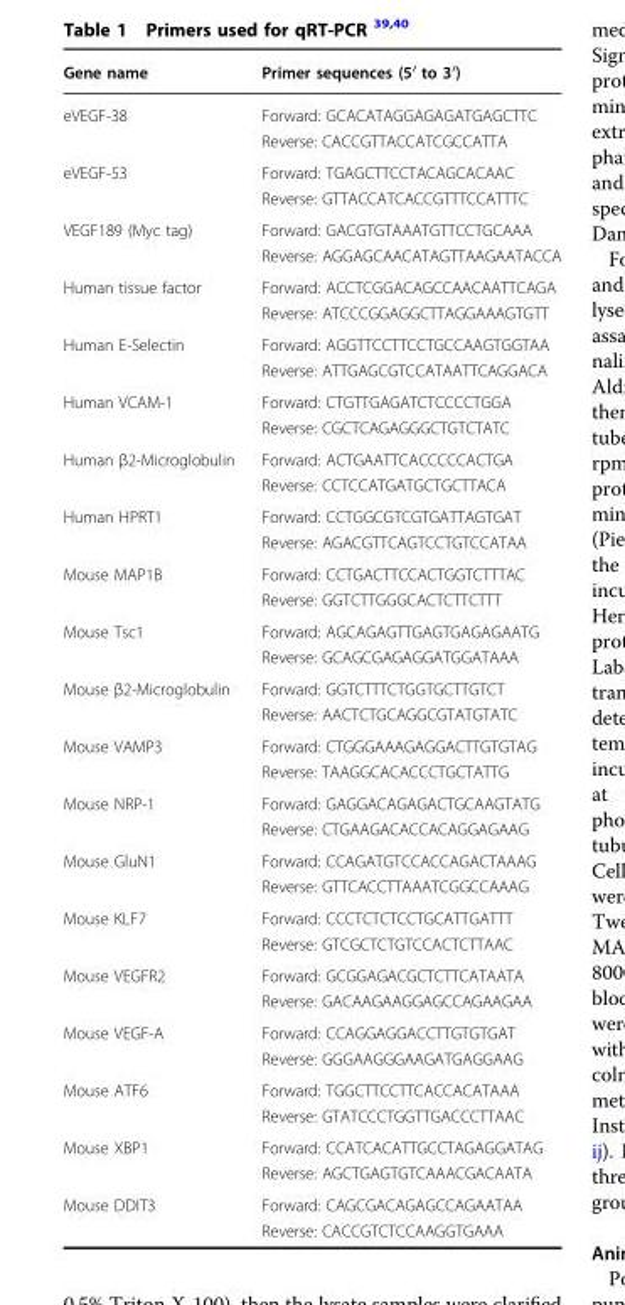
<table><thead><tr><td>Gene name</td><td>Primer sequences (5′ to 3′)</td></tr></thead><tbody><tr><td>eVEGF-38</td><td>Forward: GCACATAGGAGAGATGAGCTTC Reverse: CACCGTTACCATCGCCATTA</td></tr><tr><td>eVEGF-53</td><td>Forward: TGAGCTTCCTACAGCACAAC Reverse: GTTACCATCACCGTTTCCATTTC</td></tr><tr><td>VEGF189 (Myc tag)</td><td>Forward: GACGTGTAAATGTTCCTGCAAA Reverse: AGGAGCAACATAGTTAAGAATACCA</td></tr><tr><td>Human tissue factor</td><td>Forward: ACCTCGGACAGCCAACAATTCAGA Reverse: ATCCCGGAGGCTTAGGAAAGTGTT</td></tr><tr><td>Human E-Selectin</td><td>Forward: AGGTTCCTTCCTGCCAAGTGGTAA Reverse: ATTGAGCGTCCATAATTCAGGACA</td></tr><tr><td>Human VCAM-1</td><td>Forward: CTGTTGAGATCTCCCCTGGA Reverse: CGCTCAGAGGGCTGTCTATC</td></tr><tr><td>Human β2-Microglobulin</td><td>Forward: ACTGAATTCACCCCCACTGA Reverse: CCTCCATGATGCTGCTTACA</td></tr><tr><td>Human HPRT1</td><td>Forward: CCTGGCGTCGTGATTAGTGAT Reverse: AGACGTTCAGTCCTGTCCATAA</td></tr><tr><td>Mouse MAP1B</td><td>Forward: CCTGACTTCCACTGGTCTTTAC Reverse: GGTCTTGGGCACTCTTCTTT</td></tr><tr><td>Mouse Tsc1</td><td>Forward: AGCAGAGTTGAGTGAGAGAATG Reverse: GCAGCGAGAGGATGGATAAA</td></tr><tr><td>Mouse β2-Microglobulin</td><td>Forward: GGTCTTTCTGGTGCTTGTCT Reverse: AACTCTGCAGGCGTATGTATC</td></tr><tr><td>Mouse VAMP3</td><td>Forward: CTGGGAAAGAGGACTTGTGTAG Reverse: TAAGGCACACCCTGCTATTG</td></tr><tr><td>Mouse NRP-1</td><td>Forward: GAGGACAGAGACTGCAAGTATG Reverse: CTGAAGACACCACAGGAGAAG</td></tr><tr><td>Mouse GluN1</td><td>Forward: CCAGATGTCCACCAGACTAAAG Reverse: GTTCACCTTAAATCGGCCAAAG</td></tr><tr><td>Mouse KLF7</td><td>Forward: CCCTCTCTCCTGCATTGATTT Reverse: GTCGCTCTGTCCACTCTTAAC</td></tr><tr><td>Mouse VEGFR2</td><td>Forward: GCGGAGACGCTCTTCATAATA Reverse: GACAAGAAGGAGCCAGAAGAA</td></tr><tr><td>Mouse VEGF-A</td><td>Forward: CCAGGAGGACCTTGTGTGAT Reverse: GGGAAGGGAAGATGAGGAAG</td></tr><tr><td>Mouse ATF6</td><td>Forward: TGGCTTCCTTCACCACATAAA Reverse: GTATCCCTGGTTGACCCTTAAC</td></tr><tr><td>Mouse XBP1</td><td>Forward: CCATCACATTGCCTAGAGGATAG Reverse: AGCTGAGTGTCAAACGACAATA</td></tr><tr><td>Mouse DDIT3</td><td>Forward: CAGCGACAGAGCCAGAATAA Reverse: CACCGTCTCCAAGGTGAAA</td></tr></tbody></table>